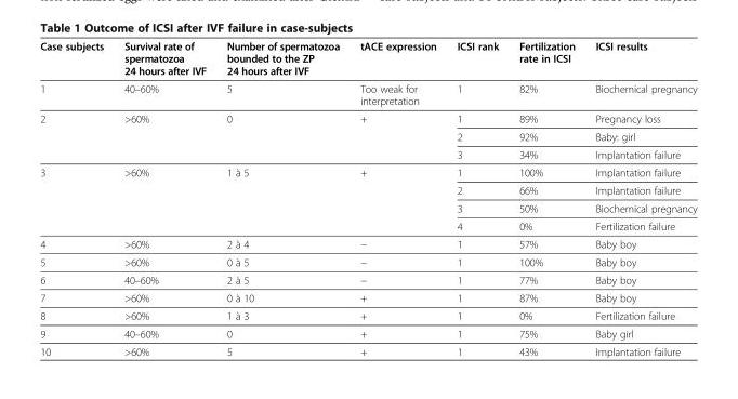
<table><thead><tr><td>Case subjects</td><td>Survival rate of spermatozoa 24 hours after IVF</td><td>Number of spermatozoa bounded to the ZP 24 hours after IVF</td><td>tACE expression</td><td>ICSI rank</td><td>Fertilization rate in ICSI</td><td>ICSI results</td></tr></thead><tbody><tr><td>1</td><td>40–60%</td><td>5</td><td>Too weak for interpretation</td><td>1</td><td>82%</td><td>Biochemical pregnancy</td></tr><tr><td rowspan="3">2</td><td rowspan="3">&gt;60%</td><td rowspan="3">0</td><td rowspan="3">+</td><td>1</td><td>89%</td><td>Pregnancy loss</td></tr><tr><td>2</td><td>92%</td><td>Baby: girl</td></tr><tr><td>3</td><td>34%</td><td>Implantation failure</td></tr><tr><td rowspan="4">3</td><td rowspan="4">&gt;60%</td><td rowspan="4">1 à 5</td><td rowspan="4">+</td><td>1</td><td>100%</td><td>Implantation failure</td></tr><tr><td>2</td><td>66%</td><td>Implantation failure</td></tr><tr><td>3</td><td>50%</td><td>Biochemical pregnancy</td></tr><tr><td>4</td><td>0%</td><td>Fertilization failure</td></tr><tr><td>4</td><td>&gt;60%</td><td>2 à 4</td><td>−</td><td>1</td><td>57%</td><td>Baby boy</td></tr><tr><td>5</td><td>&gt;60%</td><td>0 à 5</td><td>−</td><td>1</td><td>100%</td><td>Baby boy</td></tr><tr><td>6</td><td>40–60%</td><td>2 à 5</td><td>−</td><td>1</td><td>77%</td><td>Baby boy</td></tr><tr><td>7</td><td>&gt;60%</td><td>0 à 10</td><td>+</td><td>1</td><td>87%</td><td>Baby boy</td></tr><tr><td>8</td><td>&gt;60%</td><td>1 à 3</td><td>+</td><td>1</td><td>0%</td><td>Fertilization failure</td></tr><tr><td>9</td><td>40–60%</td><td>0</td><td>+</td><td>1</td><td>75%</td><td>Baby girl</td></tr><tr><td>10</td><td>&gt;60%</td><td>5</td><td>+</td><td>1</td><td>43%</td><td>Implantation failure</td></tr></tbody></table>